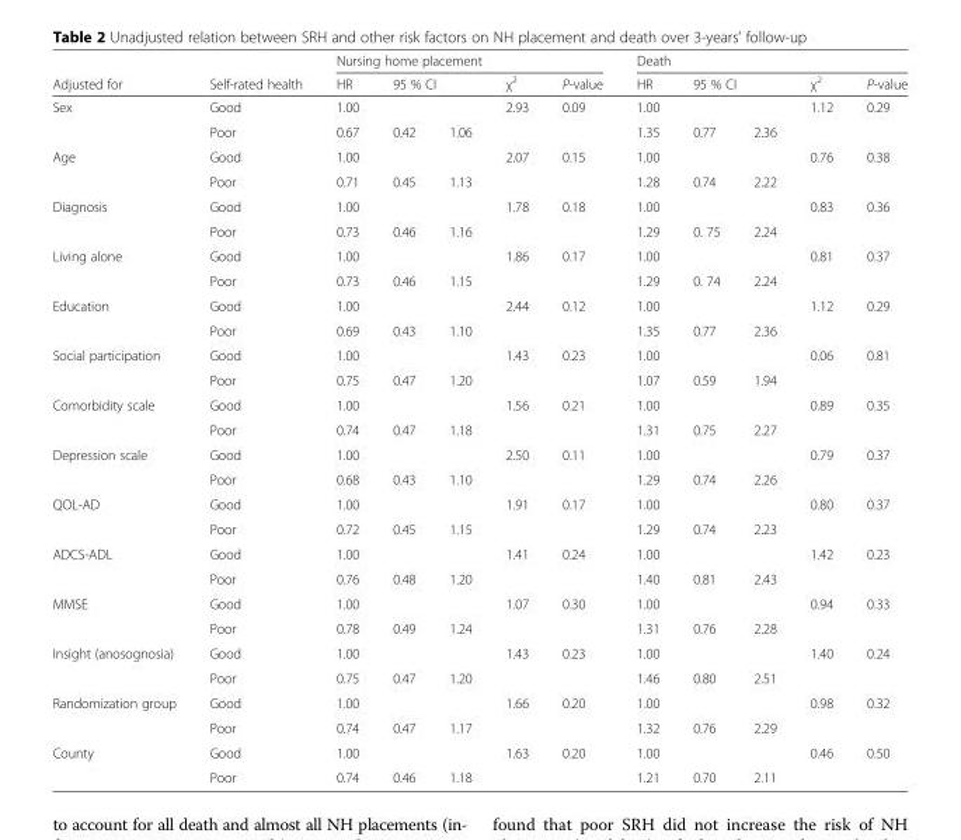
<table><thead><tr><td rowspan="3">Adjusted for Sex</td><td rowspan="3">Self-rated health Good</td><td colspan="5">Nursing home placement</td><td colspan="5">Death</td></tr><tr><td rowspan="2">HR 1.00</td><td colspan="2">95 % CI</td><td rowspan="2">χ<sup>2</sup> 2.93</td><td rowspan="2">P-value 0.09</td><td rowspan="2">HR 1.00</td><td colspan="2">95 % CI</td><td rowspan="2">χ<sup>2</sup> 1.12</td><td rowspan="2">P-value 0.29</td></tr><tr><td></td><td></td><td></td><td></td></tr></thead><tbody><tr><td></td><td>Poor</td><td>0.67</td><td>0.42</td><td>1.06</td><td></td><td></td><td>1.35</td><td>0.77</td><td>2.36</td><td></td><td></td></tr><tr><td rowspan="2">Age</td><td>Good</td><td>1.00</td><td></td><td></td><td>2.07</td><td>0.15</td><td>1.00</td><td></td><td></td><td>0.76</td><td>0.38</td></tr><tr><td>Poor</td><td>0.71</td><td>0.45</td><td>1.13</td><td></td><td></td><td>1.28</td><td>0.74</td><td>2.22</td><td></td><td></td></tr><tr><td rowspan="2">Diagnosis</td><td>Good</td><td>1.00</td><td></td><td></td><td>1.78</td><td>0.18</td><td>1.00</td><td></td><td></td><td>0.83</td><td>0.36</td></tr><tr><td>Poor</td><td>0.73</td><td>0.46</td><td>1.16</td><td></td><td></td><td>1.29</td><td>0. 75</td><td>2.24</td><td></td><td></td></tr><tr><td rowspan="2">Living alone</td><td>Good</td><td>1.00</td><td></td><td></td><td>1.86</td><td>0.17</td><td>1.00</td><td></td><td></td><td>0.81</td><td>0.37</td></tr><tr><td>Poor</td><td>0.73</td><td>0.46</td><td>1.15</td><td></td><td></td><td>1.29</td><td>0. 74</td><td>2.24</td><td></td><td></td></tr><tr><td rowspan="2">Education</td><td>Good</td><td>1.00</td><td></td><td></td><td>2.44</td><td>0.12</td><td>1.00</td><td></td><td></td><td>1.12</td><td>0.29</td></tr><tr><td>Poor</td><td>0.69</td><td>0.43</td><td>1.10</td><td></td><td></td><td>1.35</td><td>0.77</td><td>2.36</td><td></td><td></td></tr><tr><td rowspan="2">Social participation</td><td>Good</td><td>1.00</td><td></td><td></td><td>1.43</td><td>0.23</td><td>1.00</td><td></td><td></td><td>0.06</td><td>0.81</td></tr><tr><td>Poor</td><td>0.75</td><td>0.47</td><td>1.20</td><td></td><td></td><td>1.07</td><td>0.59</td><td>1.94</td><td></td><td></td></tr><tr><td rowspan="2">Comorbidity scale</td><td>Good</td><td>1.00</td><td></td><td></td><td>1.56</td><td>0.21</td><td>1.00</td><td></td><td></td><td>0.89</td><td>0.35</td></tr><tr><td>Poor</td><td>0.74</td><td>0.47</td><td>1.18</td><td></td><td></td><td>1.31</td><td>0.75</td><td>2.27</td><td></td><td></td></tr><tr><td rowspan="2">Depression scale</td><td>Good</td><td>1.00</td><td></td><td></td><td>2.50</td><td>0.11</td><td>1.00</td><td></td><td></td><td>0.79</td><td>0.37</td></tr><tr><td>Poor</td><td>0.68</td><td>0.43</td><td>1.10</td><td></td><td></td><td>1.29</td><td>0.74</td><td>2.26</td><td></td><td></td></tr><tr><td rowspan="2">QOL-AD</td><td>Good</td><td>1.00</td><td></td><td></td><td>1.91</td><td>0.17</td><td>1.00</td><td></td><td></td><td>0.80</td><td>0.37</td></tr><tr><td>Poor</td><td>0.72</td><td>0.45</td><td>1.15</td><td></td><td></td><td>1.29</td><td>0.74</td><td>2.23</td><td></td><td></td></tr><tr><td rowspan="2">ADCS-ADL</td><td>Good</td><td>1.00</td><td></td><td></td><td>1.41</td><td>0.24</td><td>1.00</td><td></td><td></td><td>1.42</td><td>0.23</td></tr><tr><td>Poor</td><td>0.76</td><td>0.48</td><td>1.20</td><td></td><td></td><td>1.40</td><td>0.81</td><td>2.43</td><td></td><td></td></tr><tr><td rowspan="2">MMSE</td><td>Good</td><td>1.00</td><td></td><td></td><td>1.07</td><td>0.30</td><td>1.00</td><td></td><td></td><td>0.94</td><td>0.33</td></tr><tr><td>Poor</td><td>0.78</td><td>0.49</td><td>1.24</td><td></td><td></td><td>1.31</td><td>0.76</td><td>2.28</td><td></td><td></td></tr><tr><td rowspan="2">Insight (anosognosia)</td><td>Good</td><td>1.00</td><td></td><td></td><td>1.43</td><td>0.23</td><td>1.00</td><td></td><td></td><td>1.40</td><td>0.24</td></tr><tr><td>Poor</td><td>0.75</td><td>0.47</td><td>1.20</td><td></td><td></td><td>1.46</td><td>0.80</td><td>2.51</td><td></td><td></td></tr><tr><td rowspan="2">Randomization group</td><td>Good</td><td>1.00</td><td></td><td></td><td>1.66</td><td>0.20</td><td>1.00</td><td></td><td></td><td>0.98</td><td>0.32</td></tr><tr><td>Poor</td><td>0.74</td><td>0.47</td><td>1.17</td><td></td><td></td><td>1.32</td><td>0.76</td><td>2.29</td><td></td><td></td></tr><tr><td rowspan="2">County</td><td>Good</td><td>1.00</td><td></td><td></td><td>1.63</td><td>0.20</td><td>1.00</td><td></td><td></td><td>0.46</td><td>0.50</td></tr><tr><td>Poor</td><td>0.74</td><td>0.46</td><td>1.18</td><td></td><td></td><td>1.21</td><td>0.70</td><td>2.11</td><td></td><td></td></tr></tbody></table>